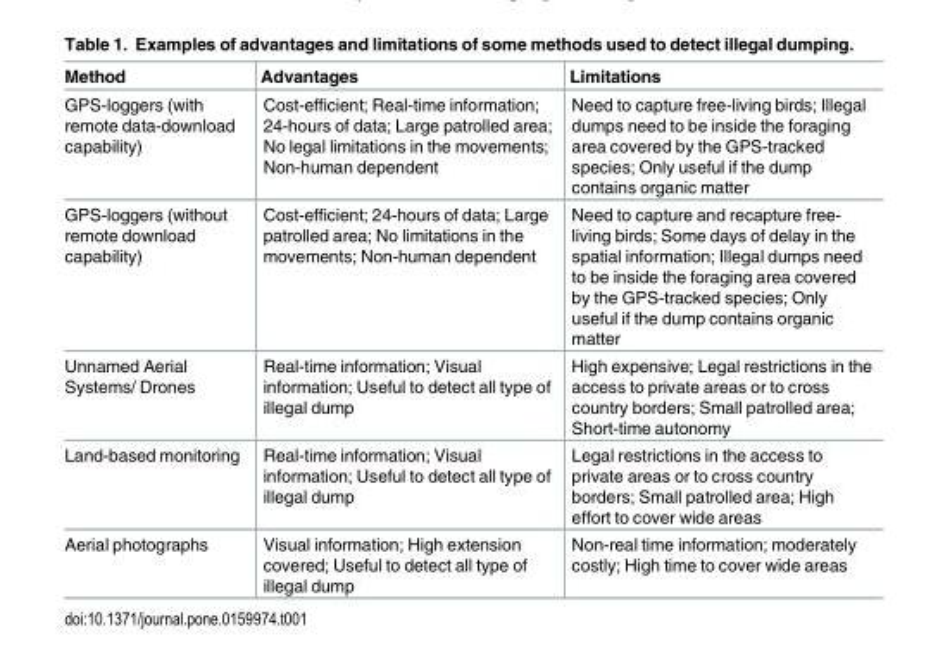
<table><thead><tr><td>Method</td><td>Advantages</td><td>Limitations</td></tr></thead><tbody><tr><td>GPS-loggers (with remote data-download capability)</td><td>Cost-efficient; Real-time information; 24-hours of data; Large patrolled area; No legal limitations in the movements; Non-human dependent</td><td>Need to capture free-living birds; Illegal dumps need to be inside the foraging area covered by the GPS-tracked species; Only useful if the dump contains organic matter</td></tr><tr><td>GPS-loggers (without remote download capability)</td><td>Cost-efficient; 24-hours of data; Large patrolled area; No limitations in the movements; Non-human dependent</td><td>Need to capture and recapture free- living birds; Some days of delay in the spatial information; Illegal dumps need to be inside the foraging area covered by the GPS-tracked species; Only useful if the dump contains organic matter</td></tr><tr><td>Unnamed Aerial Systems/ Drones</td><td>Real-time information; Visual information; Useful to detect all type of illegal dump</td><td>High expensive; Legal restrictions in the access to private areas or to cross country borders; Small patrolled area; Short-time autonomy</td></tr><tr><td>Land-based monitoring</td><td>Real-time information; Visual information; Useful to detect all type of illegal dump</td><td>Legal restrictions in the access to private areas or to cross country borders; Small patrolled area; High effort to cover wide areas</td></tr><tr><td>Aerial photographs</td><td>Visual information; High extension covered; Useful to detect all type of illegal dump</td><td>Non-real time information; moderately costly; High time to cover wide areas</td></tr></tbody></table>